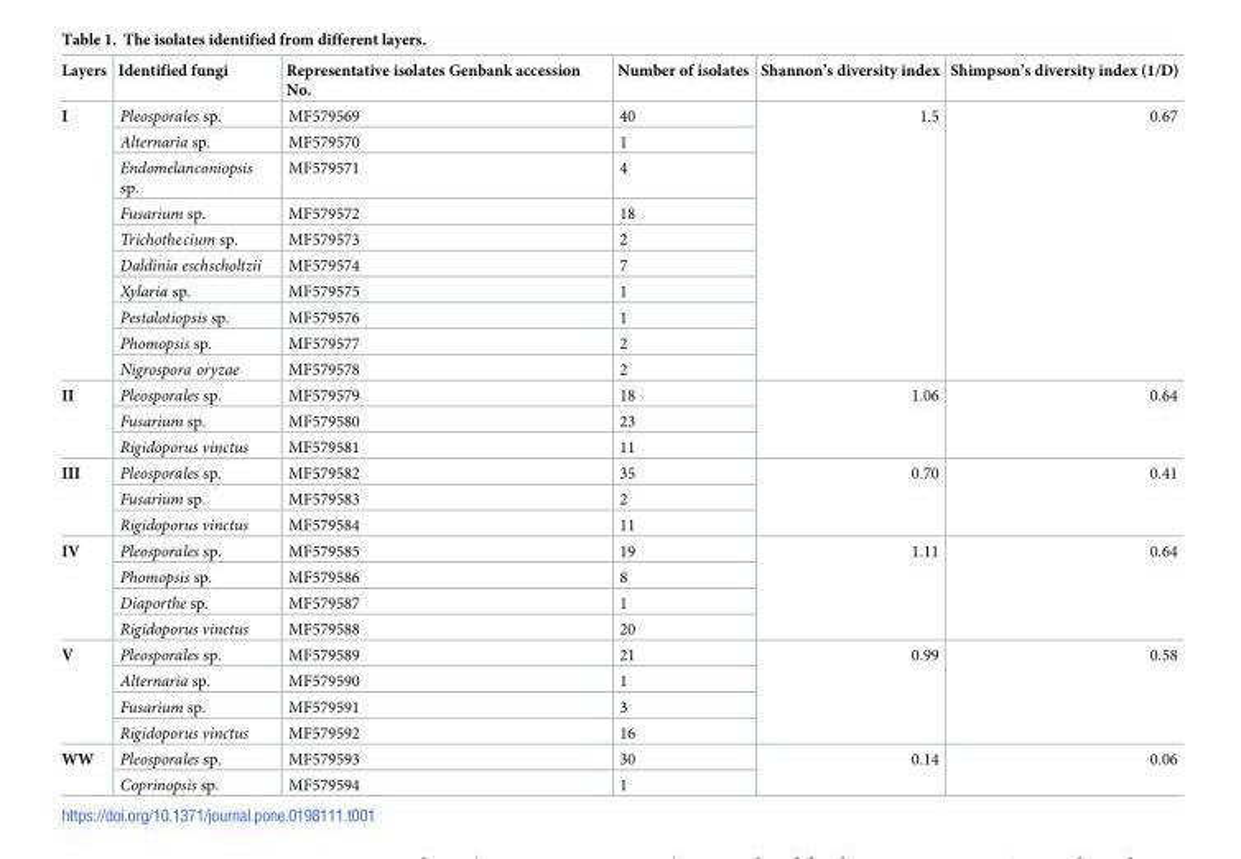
<table><thead><tr><td>Layers</td><td>Identified fungi</td><td>Representative isolates Genbank accession No.</td><td>Number of isolates</td><td>Shannon’s diversity index</td><td>Shimpson’s diversity index (1/D)</td></tr></thead><tbody><tr><td rowspan="10">I</td><td>Pleosporales sp.</td><td>MF579569</td><td>40</td><td rowspan="10">1.5</td><td rowspan="10">0.67</td></tr><tr><td>Alternaria sp.</td><td>MF579570</td><td>1</td></tr><tr><td>Endomelanconiopsis sp.</td><td>MF579571</td><td>4</td></tr><tr><td>Fusarium sp.</td><td>MF579572</td><td>18</td></tr><tr><td>Trichothecium sp.</td><td>MF579573</td><td>2</td></tr><tr><td>Daldinia eschscholtzii</td><td>MF579574</td><td>7</td></tr><tr><td>Xylaria sp.</td><td>MF579575</td><td>1</td></tr><tr><td>Pestalotiopsis sp.</td><td>MF579576</td><td>1</td></tr><tr><td>Phomopsis sp.</td><td>MF579577</td><td>2</td></tr><tr><td>Nigrospora oryzae</td><td>MF579578</td><td>2</td></tr><tr><td rowspan="3">II</td><td>Pleosporales sp.</td><td>MF579579</td><td>18</td><td rowspan="3">1.06</td><td rowspan="3">0.64</td></tr><tr><td>Fusarium sp.</td><td>MF579580</td><td>23</td></tr><tr><td>Rigidoporus vinctus</td><td>MF579581</td><td>11</td></tr><tr><td rowspan="3">III</td><td>Pleosporales sp.</td><td>MF579582</td><td>35</td><td rowspan="3">0.70</td><td rowspan="3">0.41</td></tr><tr><td>Fusarium sp.</td><td>MF579583</td><td>2</td></tr><tr><td>Rigidoporus vinctus</td><td>MF579584</td><td>11</td></tr><tr><td rowspan="4">IV</td><td>Pleosporales sp.</td><td>MF579585</td><td>19</td><td rowspan="4">1.11</td><td rowspan="4">0.64</td></tr><tr><td>Phomopsis sp.</td><td>MF579586</td><td>8</td></tr><tr><td>Diaporthe sp.</td><td>MF579587</td><td>1</td></tr><tr><td>Rigidoporus vinctus</td><td>MF579588</td><td>20</td></tr><tr><td rowspan="4">V</td><td>Pleosporales sp.</td><td>MF579589</td><td>21</td><td rowspan="4">0.99</td><td rowspan="4">0.58</td></tr><tr><td>Alternaria sp.</td><td>MF579590</td><td>1</td></tr><tr><td>Fusarium sp.</td><td>MF579591</td><td>3</td></tr><tr><td>Rigidoporus vinctus</td><td>MF579592</td><td>16</td></tr><tr><td rowspan="2">WW</td><td>Pleosporales sp.</td><td>MF579593</td><td>30</td><td rowspan="2">0.14</td><td rowspan="2">0.06</td></tr><tr><td>Coprinopsis sp.</td><td>MF579594</td><td>1</td></tr></tbody></table>